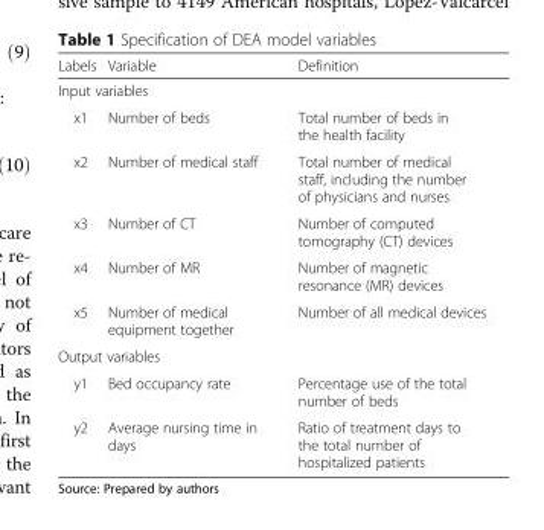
<table><thead><tr><td>Labels</td><td>Variable</td><td>Definition</td></tr></thead><tbody><tr><td colspan="3">Input variables</td></tr><tr><td>x1</td><td>Number of beds</td><td>Total number of beds in the health facility</td></tr><tr><td>x2</td><td>Number of medical staff</td><td>Total number of medical staff, including the number of physicians and nurses</td></tr><tr><td>x3</td><td>Number of CT</td><td>Number of computed tomography (CT) devices</td></tr><tr><td>x4</td><td>Number of MR</td><td>Number of magnetic resonance (MR) devices</td></tr><tr><td>x5</td><td>Number of medical equipment together</td><td>Number of all medical devices</td></tr><tr><td colspan="3">Output variables</td></tr><tr><td>y1</td><td>Bed occupancy rate</td><td>Percentage use of the total number of beds</td></tr><tr><td>y2</td><td>Average nursing time in days</td><td>Ratio of treatment days to the total number of hospitalized patients</td></tr></tbody></table>